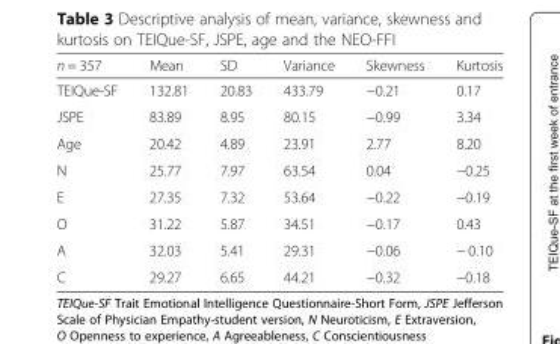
<table><thead><tr><td>n = 357</td><td>Mean</td><td>SD</td><td>Variance</td><td>Skewness</td><td>Kurtosis</td></tr></thead><tbody><tr><td>TEIQue-SF</td><td>132.81</td><td>20.83</td><td>433.79</td><td>−0.21</td><td>0.17</td></tr><tr><td>JSPE</td><td>83.89</td><td>8.95</td><td>80.15</td><td>−0.99</td><td>3.34</td></tr><tr><td>Age</td><td>20.42</td><td>4.89</td><td>23.91</td><td>2.77</td><td>8.20</td></tr><tr><td>N</td><td>25.77</td><td>7.97</td><td>63.54</td><td>0.04</td><td>−0.25</td></tr><tr><td>E</td><td>27.35</td><td>7.32</td><td>53.64</td><td>−0.22</td><td>−0.19</td></tr><tr><td>O</td><td>31.22</td><td>5.87</td><td>34.51</td><td>−0.17</td><td>0.43</td></tr><tr><td>A</td><td>32.03</td><td>5.41</td><td>29.31</td><td>−0.06</td><td>− 0.10</td></tr><tr><td>C</td><td>29.27</td><td>6.65</td><td>44.21</td><td>−0.32</td><td>−0.18</td></tr></tbody></table>